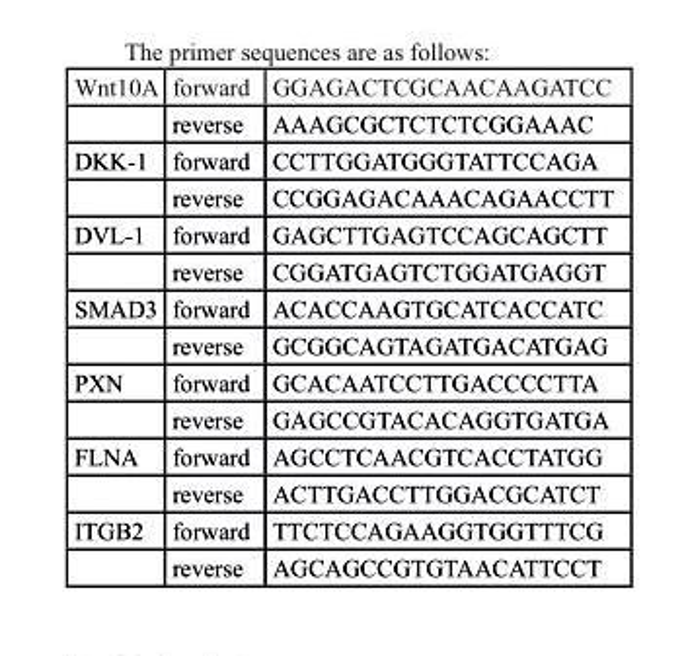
<table><tbody><tr><td rowspan="2">Wnt10A</td><td>forward</td><td>GGAGACTCGCAACAAGATCC</td></tr><tr><td>reverse</td><td>AAAGCGCTCTCTCGGAAAC</td></tr><tr><td rowspan="2">DKK-1</td><td>forward</td><td>CCTTGGATGGGTATTCCAGA</td></tr><tr><td>reverse</td><td>CCGGAGACAAACAGAACCTT</td></tr><tr><td rowspan="2">DVL-1</td><td>forward</td><td>GAGCTTGAGTCCAGCAGCTT</td></tr><tr><td>reverse</td><td>CGGATGAGTCTGGATGAGGT</td></tr><tr><td rowspan="2">SMAD3</td><td>forward</td><td>ACACCAAGTGCATCACCATC</td></tr><tr><td>reverse</td><td>GCGGCAGTAGATGACATGAG</td></tr><tr><td rowspan="2">PXN</td><td>forward</td><td>GCACAATCCTTGACCCCTTA</td></tr><tr><td>reverse</td><td>GAGCCGTACACAGGTGATGA</td></tr><tr><td rowspan="2">FLNA</td><td>forward</td><td>AGCCTCAACGTCACCTATGG</td></tr><tr><td>reverse</td><td>ACTTGACCTTGGACGCATCT</td></tr><tr><td rowspan="2">ITGB2</td><td>forward</td><td>TTCTCCAGAAGGTGGTTTCG</td></tr><tr><td>reverse</td><td>AGCAGCCGTGTAACATTCCT</td></tr></tbody></table>